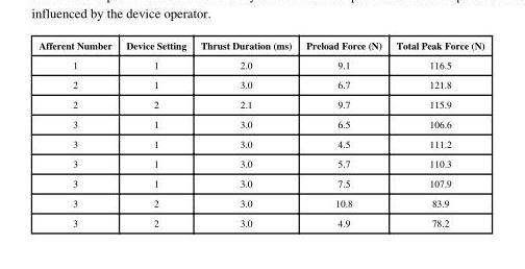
<table><thead><tr><td>Afferent Number</td><td>Device Setting</td><td>Thrust Duration (ms)</td><td>Preload Force (N)</td><td>Total Peak Force (N)</td></tr></thead><tbody><tr><td>1</td><td>1</td><td>2.0</td><td>9.1</td><td>116.5</td></tr><tr><td>2</td><td>1</td><td>3.0</td><td>6.7</td><td>121.8</td></tr><tr><td>2</td><td>2</td><td>2.1</td><td>9.7</td><td>115.9</td></tr><tr><td>3</td><td>1</td><td>3.0</td><td>6.5</td><td>106.6</td></tr><tr><td>3</td><td>1</td><td>3.0</td><td>4.5</td><td>111.2</td></tr><tr><td>3</td><td>1</td><td>3.0</td><td>5.7</td><td>110.3</td></tr><tr><td>3</td><td>1</td><td>3.0</td><td>7.5</td><td>107.9</td></tr><tr><td>3</td><td>2</td><td>3.0</td><td>10.8</td><td>83.9</td></tr><tr><td>3</td><td>2</td><td>3.0</td><td>4.9</td><td>78.2</td></tr></tbody></table>